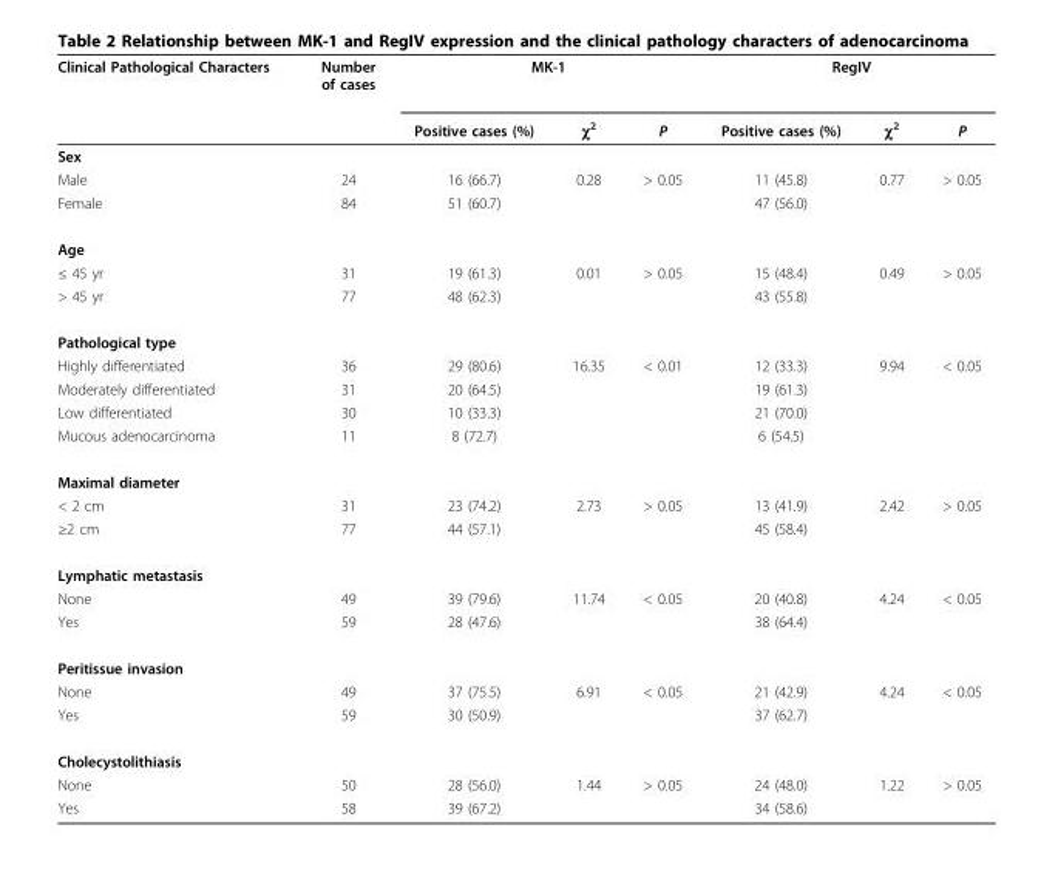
<table><thead><tr><td rowspan="2">Clinical Pathological Characters</td><td rowspan="2">Number of cases</td><td colspan="3">MK-1</td><td colspan="3">RegIV</td></tr><tr><td>Positive cases (%)</td><td>χ<sup>2</sup></td><td>P</td><td>Positive cases (%)</td><td>χ<sup>2</sup></td><td>P</td></tr></thead><tbody><tr><td colspan="8">Sex</td></tr><tr><td>Male</td><td>24</td><td>16 (66.7)</td><td>0.28</td><td>&gt; 0.05</td><td>11 (45.8)</td><td>0.77</td><td>&gt; 0.05</td></tr><tr><td>Female</td><td>84</td><td>51 (60.7)</td><td></td><td></td><td>47 (56.0)</td><td></td><td></td></tr><tr><td colspan="8">Age</td></tr><tr><td>≤ 45 yr</td><td>31</td><td>19 (61.3)</td><td>0.01</td><td>&gt; 0.05</td><td>15 (48.4)</td><td>0.49</td><td>&gt; 0.05</td></tr><tr><td>&gt; 45 yr</td><td>77</td><td>48 (62.3)</td><td></td><td></td><td>43 (55.8)</td><td></td><td></td></tr><tr><td colspan="8">Pathological type</td></tr><tr><td>Highly differentiated</td><td>36</td><td>29 (80.6)</td><td>16.35</td><td>&lt; 0.01</td><td>12 (33.3)</td><td>9.94</td><td>&lt; 0.05</td></tr><tr><td>Moderately differentiated</td><td>31</td><td>20 (64.5)</td><td></td><td></td><td>19 (61.3)</td><td></td><td></td></tr><tr><td>Low differentiated</td><td>30</td><td>10 (33.3)</td><td></td><td></td><td>21 (70.0)</td><td></td><td></td></tr><tr><td>Mucous adenocarcinoma</td><td>11</td><td>8 (72.7)</td><td></td><td></td><td>6 (54.5)</td><td></td><td></td></tr><tr><td colspan="8">Maximal diameter</td></tr><tr><td>&lt; 2 cm</td><td>31</td><td>23 (74.2)</td><td>2.73</td><td>&gt; 0.05</td><td>13 (41.9)</td><td>2.42</td><td>&gt; 0.05</td></tr><tr><td>≥2 cm</td><td>77</td><td>44 (57.1)</td><td></td><td></td><td>45 (58.4)</td><td></td><td></td></tr><tr><td colspan="8">Lymphatic metastasis</td></tr><tr><td>None</td><td>49</td><td>39 (79.6)</td><td>11.74</td><td>&lt; 0.05</td><td>20 (40.8)</td><td>4.24</td><td>&lt; 0.05</td></tr><tr><td>Yes</td><td>59</td><td>28 (47.6)</td><td></td><td></td><td>38 (64.4)</td><td></td><td></td></tr><tr><td colspan="8">Peritissue invasion</td></tr><tr><td>None</td><td>49</td><td>37 (75.5)</td><td>6.91</td><td>&lt; 0.05</td><td>21 (42.9)</td><td>4.24</td><td>&lt; 0.05</td></tr><tr><td>Yes</td><td>59</td><td>30 (50.9)</td><td></td><td></td><td>37 (62.7)</td><td></td><td></td></tr><tr><td colspan="8">Cholecystolithiasis</td></tr><tr><td>None</td><td>50</td><td>28 (56.0)</td><td>1.44</td><td>&gt; 0.05</td><td>24 (48.0)</td><td>1.22</td><td>&gt; 0.05</td></tr><tr><td>Yes</td><td>58</td><td>39 (67.2)</td><td></td><td></td><td>34 (58.6)</td><td></td><td></td></tr></tbody></table>